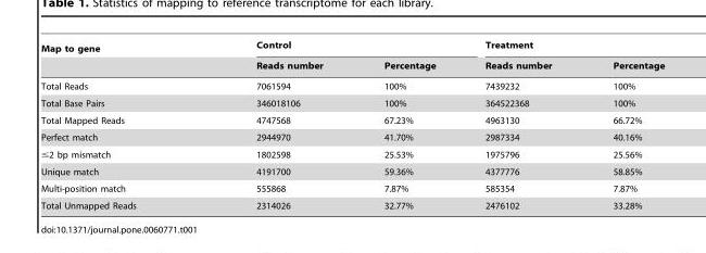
<table><thead><tr><td rowspan="2">Map to gene</td><td colspan="2">Control</td><td colspan="2">Treatment</td></tr><tr><td>Reads number</td><td>Percentage</td><td>Reads number</td><td>Percentage</td></tr></thead><tbody><tr><td>Total Reads</td><td>7061594</td><td>100%</td><td>7439232</td><td>100%</td></tr><tr><td>Total Base Pairs</td><td>346018106</td><td>100%</td><td>364522368</td><td>100%</td></tr><tr><td>Total Mapped Reads</td><td>4747568</td><td>67.23%</td><td>4963130</td><td>66.72%</td></tr><tr><td>Perfect match</td><td>2944970</td><td>41.70%</td><td>2987334</td><td>40.16%</td></tr><tr><td>≤2 bp mismatch</td><td>1802598</td><td>25.53%</td><td>1975796</td><td>25.56%</td></tr><tr><td>Unique match</td><td>4191700</td><td>59.36%</td><td>4377776</td><td>58.85%</td></tr><tr><td>Multi-position match</td><td>555868</td><td>7.87%</td><td>585354</td><td>7.87%</td></tr><tr><td>Total Unmapped Reads</td><td>2314026</td><td>32.77%</td><td>2476102</td><td>33.28%</td></tr></tbody></table>